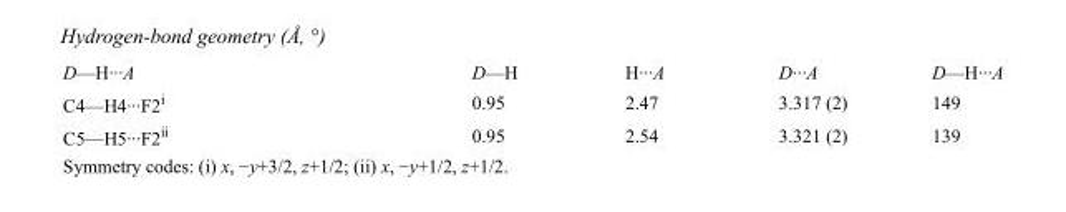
<table><tbody><tr><td>D—H···A</td><td>D—H</td><td>H···A</td><td>D···A</td><td>D—H···A</td></tr><tr><td>C4—H4···F2<sup>i</sup></td><td>0.95</td><td>2.47</td><td>3.317 (2)</td><td>149</td></tr><tr><td>C5—H5···F2<sup>ii</sup></td><td>0.95</td><td>2.54</td><td>3.321 (2)</td><td>139</td></tr></tbody></table>